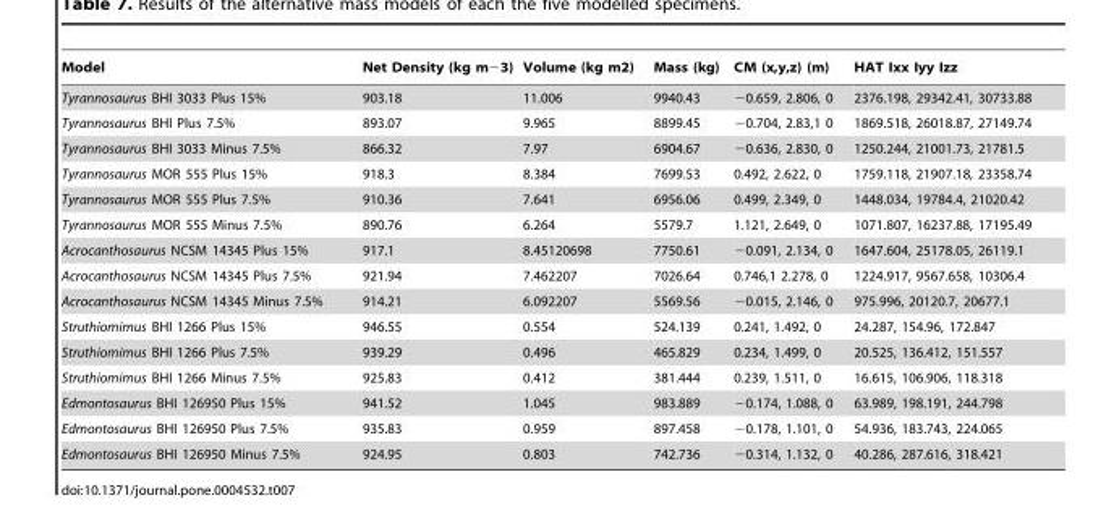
<table><thead><tr><td>Model</td><td>Net Density (kg m−3)</td><td>Volume (kg m2)</td><td>Mass (kg)</td><td>CM (x,y,z) (m)</td><td>HAT Ixx Iyy Izz</td></tr></thead><tbody><tr><td>Tyrannosaurus BHI 3033 Plus 15%</td><td>903.18</td><td>11.006</td><td>9940.43</td><td>−0.659, 2.806, 0</td><td>2376.198, 29342.41, 30733.88</td></tr><tr><td>Tyrannosaurus BHI Plus 7.5%</td><td>893.07</td><td>9.965</td><td>8899.45</td><td>−0.704, 2.83,1 0</td><td>1869.518, 26018.87, 27149.74</td></tr><tr><td>Tyrannosaurus BHI 3033 Minus 7.5%</td><td>866.32</td><td>7.97</td><td>6904.67</td><td>−0.636, 2.830, 0</td><td>1250.244, 21001.73, 21781.5</td></tr><tr><td>Tyrannosaurus MOR 555 Plus 15%</td><td>918.3</td><td>8.384</td><td>7699.53</td><td>0.492, 2.622, 0</td><td>1759.118, 21907.18, 23358.74</td></tr><tr><td>Tyrannosaurus MOR 555 Plus 7.5%</td><td>910.36</td><td>7.641</td><td>6956.06</td><td>0.499, 2.349, 0</td><td>1448.034, 19784.4, 21020.42</td></tr><tr><td>Tyrannosaurus MOR 555 Minus 7.5%</td><td>890.76</td><td>6.264</td><td>5579.7</td><td>1.121, 2.649, 0</td><td>1071.807, 16237.88, 17195.49</td></tr><tr><td>Acrocanthosaurus NCSM 14345 Plus 15%</td><td>917.1</td><td>8.45120698</td><td>7750.61</td><td>−0.091, 2.134, 0</td><td>1647.604, 25178.05, 26119.1</td></tr><tr><td>Acrocanthosaurus NCSM 14345 Plus 7.5%</td><td>921.94</td><td>7.462207</td><td>7026.64</td><td>0.746,1 2.278, 0</td><td>1224.917, 9567.658, 10306.4</td></tr><tr><td>Acrocanthosaurus NCSM 14345 Minus 7.5%</td><td>914.21</td><td>6.092207</td><td>5569.56</td><td>−0.015, 2.146, 0</td><td>975.996, 20120.7, 20677.1</td></tr><tr><td>Struthiomimus BHI 1266 Plus 15%</td><td>946.55</td><td>0.554</td><td>524.139</td><td>0.241, 1.492, 0</td><td>24.287, 154.96, 172.847</td></tr><tr><td>Struthiomimus BHI 1266 Plus 7.5%</td><td>939.29</td><td>0.496</td><td>465.829</td><td>0.234, 1.499, 0</td><td>20.525, 136.412, 151.557</td></tr><tr><td>Struthiomimus BHI 1266 Minus 7.5%</td><td>925.83</td><td>0.412</td><td>381.444</td><td>0.239, 1.511, 0</td><td>16.615, 106.906, 118.318</td></tr><tr><td>Edmontosaurus BHI 126950 Plus 15%</td><td>941.52</td><td>1.045</td><td>983.889</td><td>−0.174, 1.088, 0</td><td>63.989, 198.191, 244.798</td></tr><tr><td>Edmontosaurus BHI 126950 Plus 7.5%</td><td>935.83</td><td>0.959</td><td>897.458</td><td>−0.178, 1.101, 0</td><td>54.936, 183.743, 224.065</td></tr><tr><td>Edmontosaurus BHI 126950 Minus 7.5%</td><td>924.95</td><td>0.803</td><td>742.736</td><td>−0.314, 1.132, 0</td><td>40.286, 287.616, 318.421</td></tr></tbody></table>